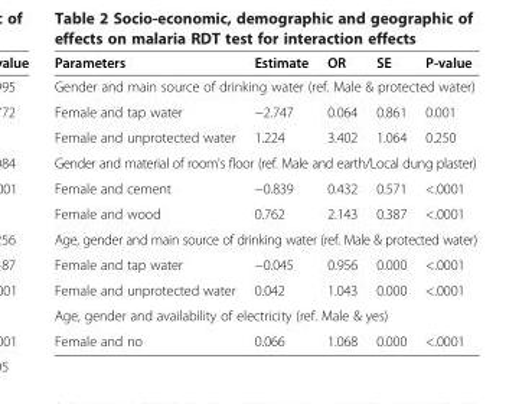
<table><thead><tr><td>Parameters</td><td>Estimate</td><td>OR</td><td>SE</td><td>P-value</td></tr></thead><tbody><tr><td colspan="5">Gender and main source of drinking water (ref. Male &amp; protected water)</td></tr><tr><td>Female and tap water</td><td>−2.747</td><td>0.064</td><td>0.861</td><td>0.001</td></tr><tr><td>Female and unprotected water</td><td>1.224</td><td>3.402</td><td>1.064</td><td>0.250</td></tr><tr><td colspan="5">Gender and material of room&#x27;s floor (ref. Male and earth/Local dung plaster)</td></tr><tr><td>Female and cement</td><td>−0.839</td><td>0.432</td><td>0.571</td><td>&lt;.0001</td></tr><tr><td>Female and wood</td><td>0.762</td><td>2.143</td><td>0.387</td><td>&lt;.0001</td></tr><tr><td colspan="5">Age, gender and main source of drinking water (ref. Male &amp; protected water)</td></tr><tr><td>Female and tap water</td><td>−0.045</td><td>0.956</td><td>0.000</td><td>&lt;.0001</td></tr><tr><td>Female and unprotected water</td><td>0.042</td><td>1.043</td><td>0.000</td><td>&lt;.0001</td></tr><tr><td colspan="5">Age, gender and availability of electricity (ref. Male &amp; yes)</td></tr><tr><td>Female and no</td><td>0.066</td><td>1.068</td><td>0.000</td><td>&lt;.0001</td></tr></tbody></table>